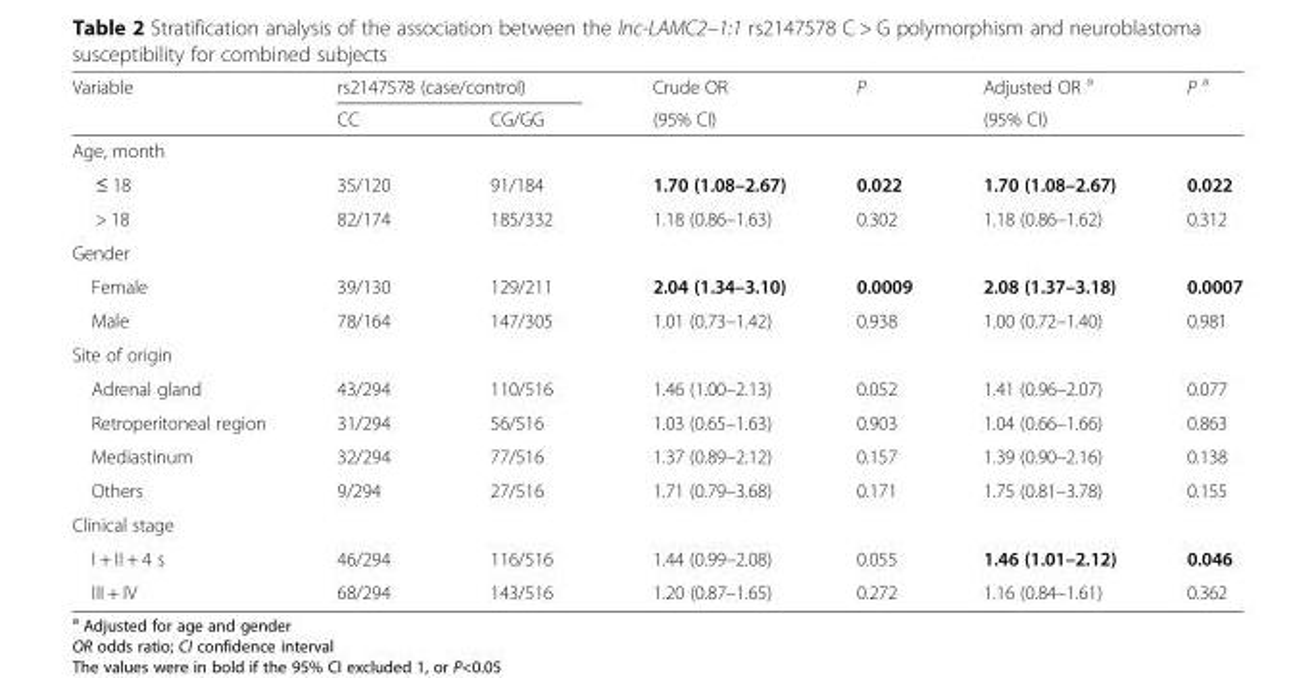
<table><thead><tr><td rowspan="2">Variable</td><td colspan="2">rs2147578 (case/control)</td><td rowspan="2">Crude OR (95% CI)</td><td rowspan="2">P</td><td rowspan="2">Adjusted OR <sup>a</sup> (95% CI)</td><td rowspan="2">P <sup>a</sup></td></tr><tr><td>CC</td><td>CG/GG</td></tr></thead><tbody><tr><td colspan="7">Age, month</td></tr><tr><td>≤ 18</td><td>35/120</td><td>91/184</td><td>1.70 (1.08–2.67)</td><td>0.022</td><td>1.70 (1.08–2.67)</td><td>0.022</td></tr><tr><td>&gt; 18</td><td>82/174</td><td>185/332</td><td>1.18 (0.86–1.63)</td><td>0.302</td><td>1.18 (0.86–1.62)</td><td>0.312</td></tr><tr><td colspan="7">Gender</td></tr><tr><td>Female</td><td>39/130</td><td>129/211</td><td>2.04 (1.34–3.10)</td><td>0.0009</td><td>2.08 (1.37–3.18)</td><td>0.0007</td></tr><tr><td>Male</td><td>78/164</td><td>147/305</td><td>1.01 (0.73–1.42)</td><td>0.938</td><td>1.00 (0.72–1.40)</td><td>0.981</td></tr><tr><td colspan="7">Site of origin</td></tr><tr><td>Adrenal gland</td><td>43/294</td><td>110/516</td><td>1.46 (1.00–2.13)</td><td>0.052</td><td>1.41 (0.96–2.07)</td><td>0.077</td></tr><tr><td>Retroperitoneal region</td><td>31/294</td><td>56/516</td><td>1.03 (0.65–1.63)</td><td>0.903</td><td>1.04 (0.66–1.66)</td><td>0.863</td></tr><tr><td>Mediastinum</td><td>32/294</td><td>77/516</td><td>1.37 (0.89–2.12)</td><td>0.157</td><td>1.39 (0.90–2.16)</td><td>0.138</td></tr><tr><td>Others</td><td>9/294</td><td>27/516</td><td>1.71 (0.79–3.68)</td><td>0.171</td><td>1.75 (0.81–3.78)</td><td>0.155</td></tr><tr><td colspan="7">Clinical stage</td></tr><tr><td>I + II + 4 s</td><td>46/294</td><td>116/516</td><td>1.44 (0.99–2.08)</td><td>0.055</td><td>1.46 (1.01–2.12)</td><td>0.046</td></tr><tr><td>III + IV</td><td>68/294</td><td>143/516</td><td>1.20 (0.87–1.65)</td><td>0.272</td><td>1.16 (0.84–1.61)</td><td>0.362</td></tr></tbody></table>